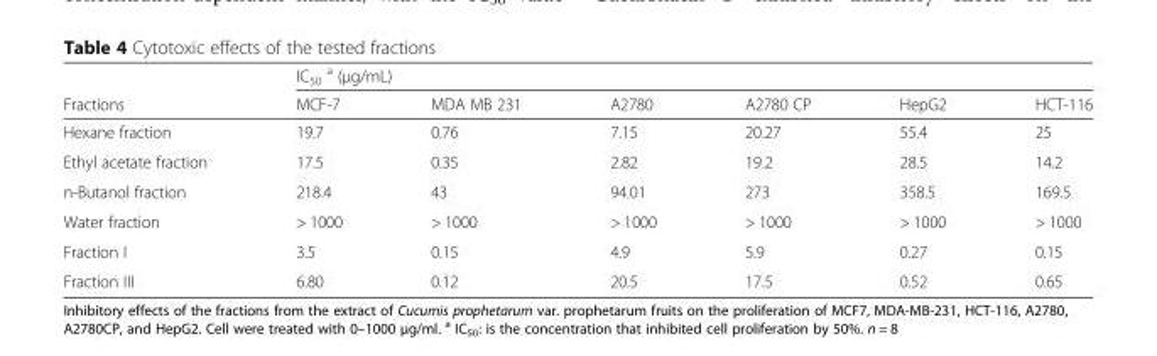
<table><thead><tr><td rowspan="2">Fractions</td><td colspan="6">IC<sub>50</sub> <sup>a</sup> (μg/mL)</td></tr><tr><td>MCF-7</td><td>MDA MB 231</td><td>A2780</td><td>A2780 CP</td><td>HepG2</td><td>HCT-116</td></tr></thead><tbody><tr><td>Hexane fraction</td><td>19.7</td><td>0.76</td><td>7.15</td><td>20.27</td><td>55.4</td><td>25</td></tr><tr><td>Ethyl acetate fraction</td><td>17.5</td><td>0.35</td><td>2.82</td><td>19.2</td><td>28.5</td><td>14.2</td></tr><tr><td>n-Butanol fraction</td><td>218.4</td><td>43</td><td>94.01</td><td>273</td><td>358.5</td><td>169.5</td></tr><tr><td>Water fraction</td><td>&gt; 1000</td><td>&gt; 1000</td><td>&gt; 1000</td><td>&gt; 1000</td><td>&gt; 1000</td><td>&gt; 1000</td></tr><tr><td>Fraction I</td><td>3.5</td><td>0.15</td><td>4.9</td><td>5.9</td><td>0.27</td><td>0.15</td></tr><tr><td>Fraction III</td><td>6.80</td><td>0.12</td><td>20.5</td><td>17.5</td><td>0.52</td><td>0.65</td></tr></tbody></table>